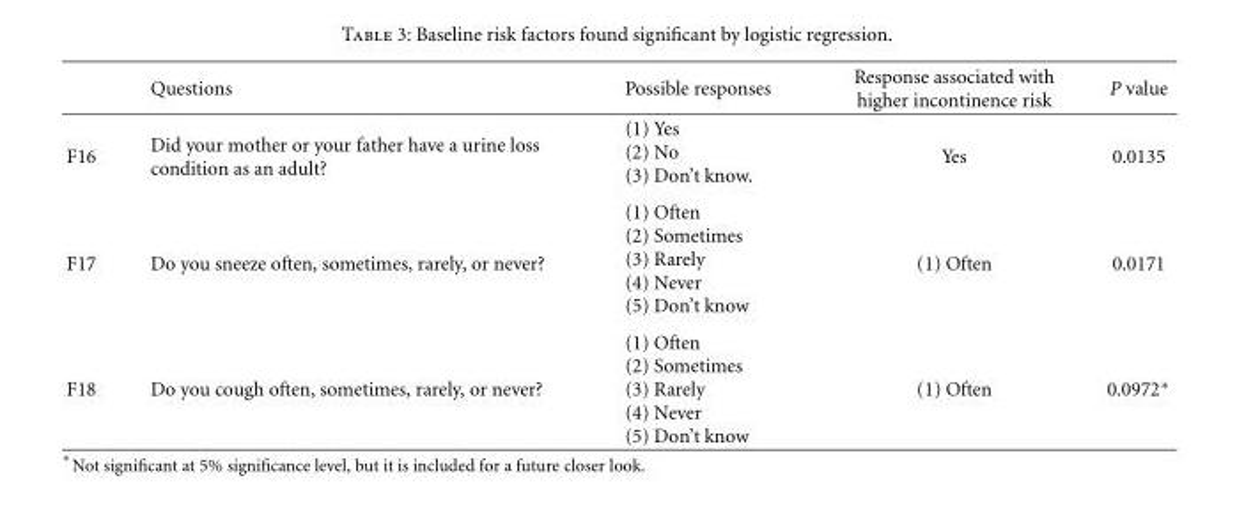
<table><thead><tr><td></td><td>Questions</td><td>Possible responses</td><td>Response associated with higher incontinence risk</td><td>P value</td></tr></thead><tbody><tr><td>F16</td><td>Did your mother or your father have a urine loss condition as an adult?</td><td>(1) Yes (2) No (3) Don’t know.</td><td>Yes</td><td>0.0135</td></tr><tr><td>F17</td><td>Do you sneeze often, sometimes, rarely, or never?</td><td>(1) Often (2) Sometimes (3) Rarely (4) Never (5) Don’t know</td><td>(1) Often</td><td>0.0171</td></tr><tr><td>F18</td><td>Do you cough often, sometimes, rarely, or never?</td><td>(1) Often (2) Sometimes (3) Rarely (4) Never (5) Don’t know</td><td>(1) Often</td><td>0.0972∗</td></tr></tbody></table>